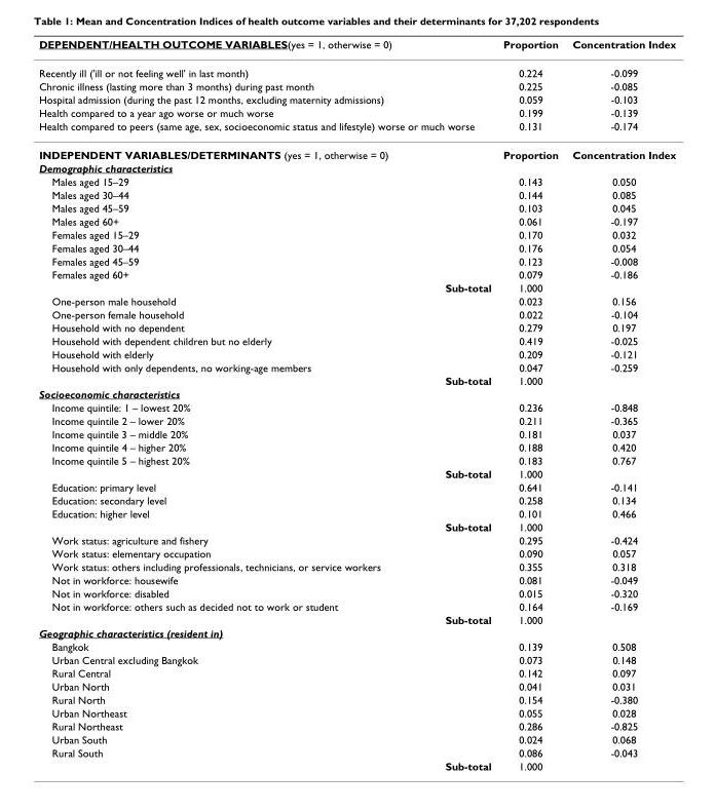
<table><thead><tr><td>DEPENDENT/HEALTH OUTCOME VARIABLES(yes = 1, otherwise = 0)</td><td>Proportion</td><td>Concentration Index</td></tr></thead><tbody><tr><td>Recently ill (&#x27;ill or not feeling well&#x27; in last month)</td><td>0.224</td><td>-0.099</td></tr><tr><td>Chronic illness (lasting more than 3 months) during past month</td><td>0.225</td><td>-0.085</td></tr><tr><td>Hospital admission (during the past 12 months, excluding maternity admissions)</td><td>0.059</td><td>-0.103</td></tr><tr><td>Health compared to a year ago worse or much worse</td><td>0.199</td><td>-0.139</td></tr><tr><td>Health compared to peers (same age, sex, socioeconomic status and lifestyle) worse or much worse</td><td>0.131</td><td>-0.174</td></tr><tr><td>INDEPENDENT VARIABLES/DETERMINANTS (yes = 1, otherwise = 0)</td><td>Proportion</td><td>Concentration Index</td></tr><tr><td colspan="3">Demographic characteristics</td></tr><tr><td>Males aged 15–29</td><td>0.143</td><td>0.050</td></tr><tr><td>Males aged 30–44</td><td>0.144</td><td>0.085</td></tr><tr><td>Males aged 45–59</td><td>0.103</td><td>0.045</td></tr><tr><td>Males aged 60+</td><td>0.061</td><td>-0.197</td></tr><tr><td>Females aged 15–29</td><td>0.170</td><td>0.032</td></tr><tr><td>Females aged 30–44</td><td>0.176</td><td>0.054</td></tr><tr><td>Females aged 45–59</td><td>0.123</td><td>-0.008</td></tr><tr><td>Females aged 60+</td><td>0.079</td><td>-0.186</td></tr><tr><td>Sub-total</td><td>1.000</td><td></td></tr><tr><td>One-person male household</td><td>0.023</td><td>0.156</td></tr><tr><td>One-person female household</td><td>0.022</td><td>-0.104</td></tr><tr><td>Household with no dependent</td><td>0.279</td><td>0.197</td></tr><tr><td>Household with dependent children but no elderly</td><td>0.419</td><td>-0.025</td></tr><tr><td>Household with elderly</td><td>0.209</td><td>-0.121</td></tr><tr><td>Household with only dependents, no working-age members</td><td>0.047</td><td>-0.259</td></tr><tr><td>Sub-total</td><td>1.000</td><td></td></tr><tr><td colspan="3">Socioeconomic characteristics</td></tr><tr><td>Income quintile: 1 – lowest 20%</td><td>0.236</td><td>-0.848</td></tr><tr><td>Income quintile 2 – lower 20%</td><td>0.211</td><td>-0.365</td></tr><tr><td>Income quintile 3 – middle 20%</td><td>0.181</td><td>0.037</td></tr><tr><td>Income quintile 4 – higher 20%</td><td>0.188</td><td>0.420</td></tr><tr><td>Income quintile 5 – highest 20%</td><td>0.183</td><td>0.767</td></tr><tr><td>Sub-total</td><td>1.000</td><td></td></tr><tr><td>Education: primary level</td><td>0.641</td><td>-0.141</td></tr><tr><td>Education: secondary level</td><td>0.258</td><td>0.134</td></tr><tr><td>Education: higher level</td><td>0.101</td><td>0.466</td></tr><tr><td>Sub-total</td><td>1.000</td><td></td></tr><tr><td>Work status: agriculture and fishery</td><td>0.295</td><td>-0.424</td></tr><tr><td>Work status: elementary occupation</td><td>0.090</td><td>0.057</td></tr><tr><td>Work status: others including professionals, technicians, or service workers</td><td>0.355</td><td>0.318</td></tr><tr><td>Not in workforce: housewife</td><td>0.081</td><td>-0.049</td></tr><tr><td>Not in workforce: disabled</td><td>0.015</td><td>-0.320</td></tr><tr><td>Not in workforce: others such as decided not to work or student</td><td>0.164</td><td>-0.169</td></tr><tr><td>Sub-total</td><td>1.000</td><td></td></tr><tr><td colspan="3">Geographic characteristics (resident in)</td></tr><tr><td>Bangkok</td><td>0.139</td><td>0.508</td></tr><tr><td>Urban Central excluding Bangkok</td><td>0.073</td><td>0.148</td></tr><tr><td>Rural Central</td><td>0.142</td><td>0.097</td></tr><tr><td>Urban North</td><td>0.041</td><td>0.031</td></tr><tr><td>Rural North</td><td>0.154</td><td>-0.380</td></tr><tr><td>Urban Northeast</td><td>0.055</td><td>0.028</td></tr><tr><td>Rural Northeast</td><td>0.286</td><td>-0.825</td></tr><tr><td>Urban South</td><td>0.024</td><td>0.068</td></tr><tr><td>Rural South</td><td>0.086</td><td>-0.043</td></tr><tr><td>Sub-total</td><td>1.000</td><td></td></tr></tbody></table>